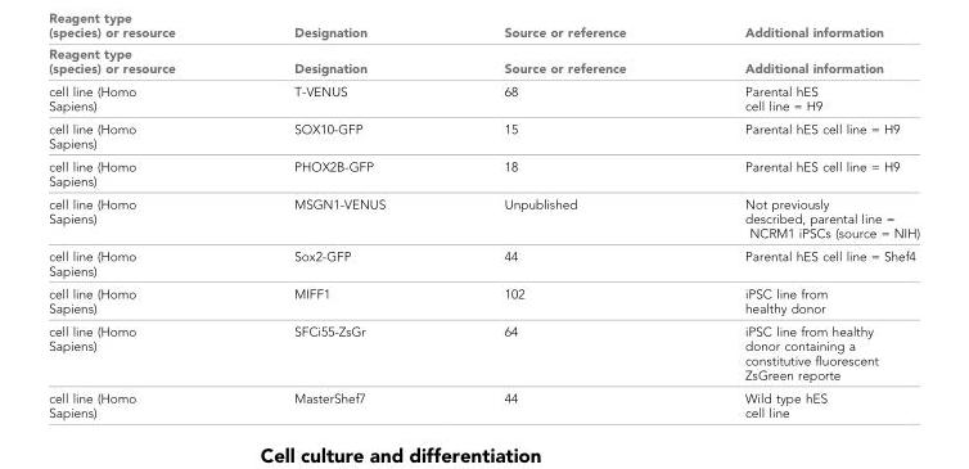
<table><thead><tr><td>Reagent type (species) or resource</td><td>Designation</td><td>Source or reference</td><td>Additional information</td></tr></thead><tbody><tr><td>cell line (Homo Sapiens)</td><td>T-VENUS</td><td>68</td><td>Parental hES cell line = H9</td></tr><tr><td>cell line (Homo Sapiens)</td><td>SOX10-GFP</td><td>15</td><td>Parental hES cell line = H9</td></tr><tr><td>cell line (Homo Sapiens)</td><td>PHOX2B-GFP</td><td>18</td><td>Parental hES cell line = H9</td></tr><tr><td>cell line (Homo Sapiens)</td><td>MSGN1-VENUS</td><td>Unpublished</td><td>Not previously described, parental line = NCRM1 iPSCs (source = NIH)</td></tr><tr><td>cell line (Homo Sapiens)</td><td>Sox2-GFP</td><td>44</td><td>Parental hES cell line = Shef4</td></tr><tr><td>cell line (Homo Sapiens)</td><td>MIFF1</td><td>102</td><td>iPSC line from healthy donor</td></tr><tr><td>cell line (Homo Sapiens)</td><td>SFCi55-ZsGr</td><td>64</td><td>iPSC line from healthy donor containing a constitutive fluorescent ZsGreen reporte</td></tr><tr><td>cell line (Homo Sapiens)</td><td>MasterShef7</td><td>44</td><td>Wild type hES cell line</td></tr></tbody></table>